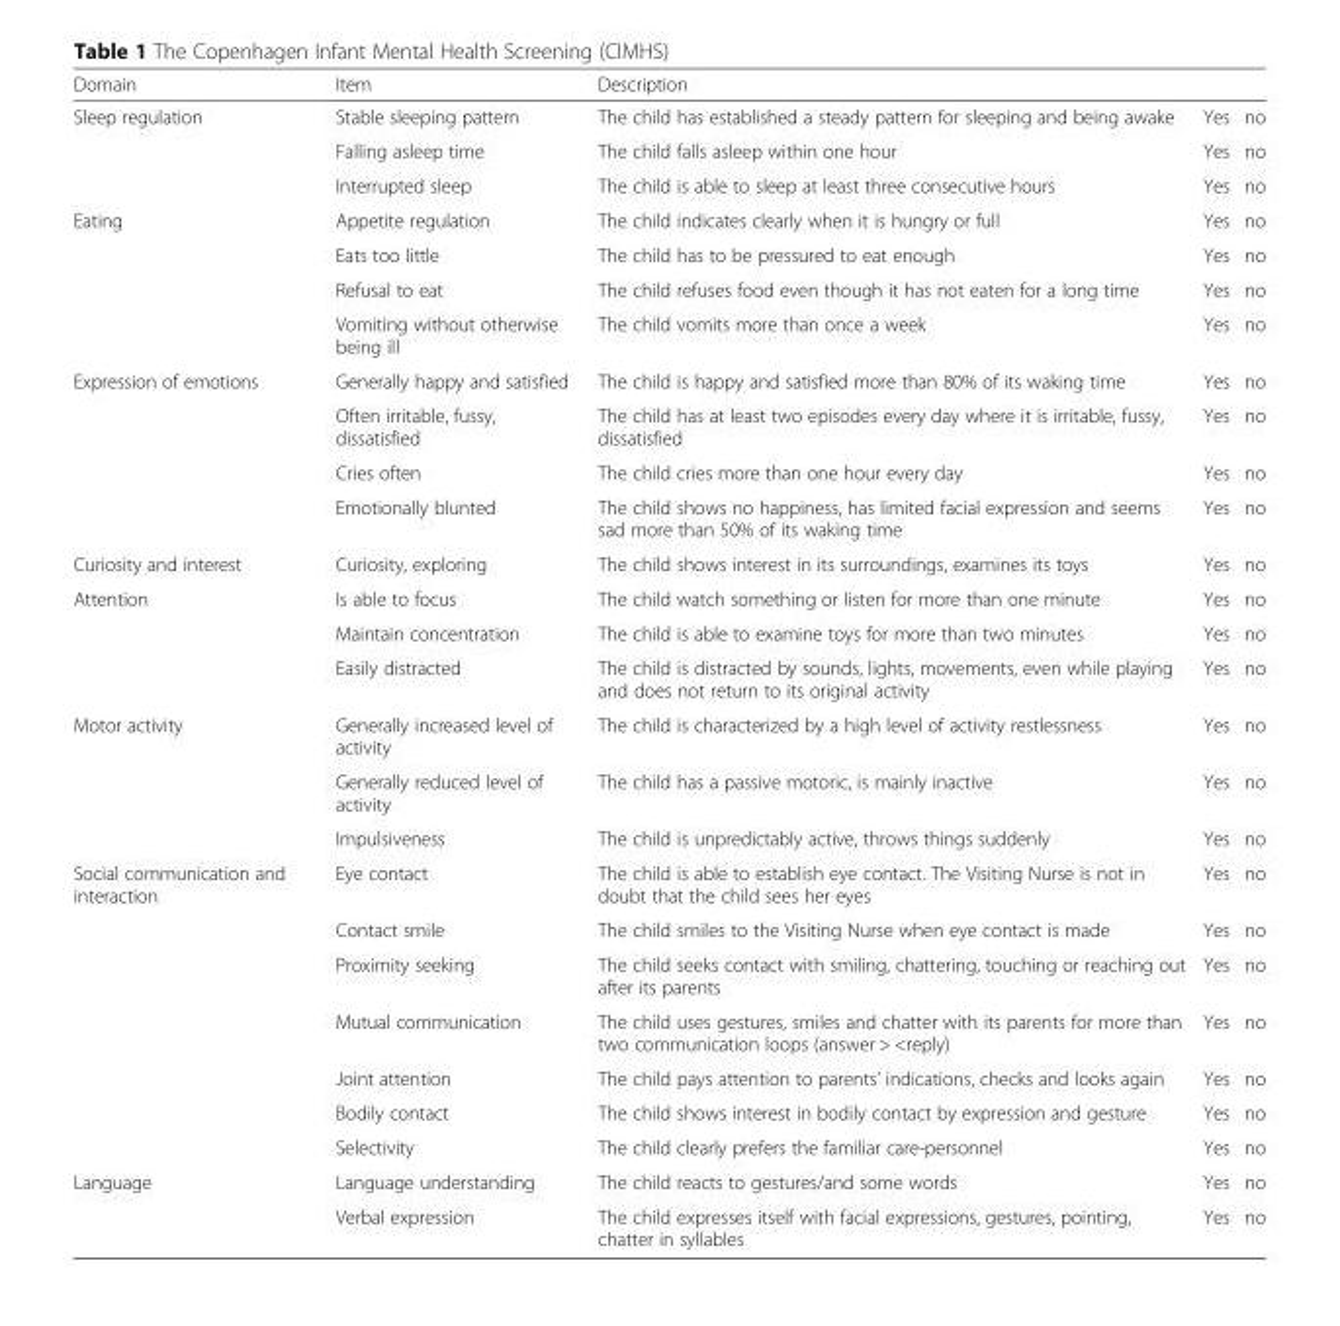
<table><thead><tr><td>Domain</td><td>Item</td><td>Description</td><td></td><td></td></tr></thead><tbody><tr><td rowspan="3">Sleep regulation</td><td>Stable sleeping pattern</td><td>The child has established a steady pattern for sleeping and being awake</td><td>Yes</td><td>no</td></tr><tr><td>Falling asleep time</td><td>The child falls asleep within one hour</td><td>Yes</td><td>no</td></tr><tr><td>Interrupted sleep</td><td>The child is able to sleep at least three consecutive hours</td><td>Yes</td><td>no</td></tr><tr><td rowspan="4">Eating</td><td>Appetite regulation</td><td>The child indicates clearly when it is hungry or full</td><td>Yes</td><td>no</td></tr><tr><td>Eats too little</td><td>The child has to be pressured to eat enough</td><td>Yes</td><td>no</td></tr><tr><td>Refusal to eat</td><td>The child refuses food even though it has not eaten for a long time</td><td>Yes</td><td>no</td></tr><tr><td>Vomiting without otherwise being ill</td><td>The child vomits more than once a week</td><td>Yes</td><td>no</td></tr><tr><td rowspan="4">Expression of emotions</td><td>Generally happy and satisfied</td><td>The child is happy and satisfied more than 80% of its waking time</td><td>Yes</td><td>no</td></tr><tr><td>Often irritable, fussy, dissatisfied</td><td>The child has at least two episodes every day where it is irritable, fussy, dissatisfied</td><td>Yes</td><td>no</td></tr><tr><td>Cries often</td><td>The child cries more than one hour every day</td><td>Yes</td><td>no</td></tr><tr><td>Emotionally blunted</td><td>The child shows no happiness, has limited facial expression and seems sad more than 50% of its waking time</td><td>Yes</td><td>no</td></tr><tr><td>Curiosity and interest</td><td>Curiosity, exploring</td><td>The child shows interest in its surroundings, examines its toys</td><td>Yes</td><td>no</td></tr><tr><td rowspan="3">Attention</td><td>Is able to focus</td><td>The child watch something or listen for more than one minute</td><td>Yes</td><td>no</td></tr><tr><td>Maintain concentration</td><td>The child is able to examine toys for more than two minutes</td><td>Yes</td><td>no</td></tr><tr><td>Easily distracted</td><td>The child is distracted by sounds, lights, movements, even while playing and does not return to its original activity</td><td>Yes</td><td>no</td></tr><tr><td rowspan="3">Motor activity</td><td>Generally increased level of activity</td><td>The child is characterized by a high level of activity restlessness</td><td>Yes</td><td>no</td></tr><tr><td>Generally reduced level of activity</td><td>The child has a passive motoric, is mainly inactive</td><td>Yes</td><td>no</td></tr><tr><td>Impulsiveness</td><td>The child is unpredictably active, throws things suddenly</td><td>Yes</td><td>no</td></tr><tr><td rowspan="7">Social communication and interaction</td><td>Eye contact</td><td>The child is able to establish eye contact. The Visiting Nurse is not in doubt that the child sees her eyes</td><td>Yes</td><td>no</td></tr><tr><td>Contact smile</td><td>The child smiles to the Visiting Nurse when eye contact is made</td><td>Yes</td><td>no</td></tr><tr><td>Proximity seeking</td><td>The child seeks contact with smiling, chattering, touching or reaching out after its parents</td><td>Yes</td><td>no</td></tr><tr><td>Mutual communication</td><td>The child uses gestures, smiles and chatter with its parents for more than two communication loops (answer &gt; &lt;reply)</td><td>Yes</td><td>no</td></tr><tr><td>Joint attention</td><td>The child pays attention to parents’ indications, checks and looks again</td><td>Yes</td><td>no</td></tr><tr><td>Bodily contact</td><td>The child shows interest in bodily contact by expression and gesture</td><td>Yes</td><td>no</td></tr><tr><td>Selectivity</td><td>The child clearly prefers the familiar care-personnel</td><td>Yes</td><td>no</td></tr><tr><td rowspan="2">Language</td><td>Language understanding</td><td>The child reacts to gestures/and some words</td><td>Yes</td><td>no</td></tr><tr><td>Verbal expression</td><td>The child expresses itself with facial expressions, gestures, pointing, chatter in syllables</td><td>Yes</td><td>no</td></tr></tbody></table>